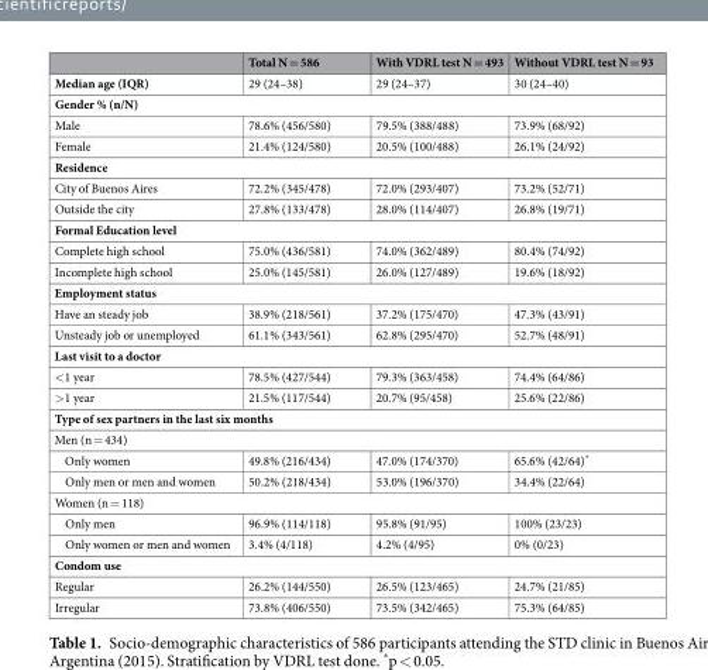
<table><thead><tr><td></td><td>Total N = 586</td><td>With VDRL test N = 493</td><td>Without VDRL test N = 93</td></tr></thead><tbody><tr><td>Median age (IQR)</td><td>29 (24–38)</td><td>29 (24–37)</td><td>30 (24–40)</td></tr><tr><td colspan="4">Gender % (n/N)</td></tr><tr><td>Male</td><td>78.6% (456/580)</td><td>79.5% (388/488)</td><td>73.9% (68/92)</td></tr><tr><td>Female</td><td>21.4% (124/580)</td><td>20.5% (100/488)</td><td>26.1% (24/92)</td></tr><tr><td colspan="4">Residence</td></tr><tr><td>City of Buenos Aires</td><td>72.2% (345/478)</td><td>72.0% (293/407)</td><td>73.2% (52/71)</td></tr><tr><td>Outside the city</td><td>27.8% (133/478)</td><td>28.0% (114/407)</td><td>26.8% (19/71)</td></tr><tr><td colspan="4">Formal Education level</td></tr><tr><td>Complete high school</td><td>75.0% (436/581)</td><td>74.0% (362/489)</td><td>80.4% (74/92)</td></tr><tr><td>Incomplete high school</td><td>25.0% (145/581)</td><td>26.0% (127/489)</td><td>19.6% (18/92)</td></tr><tr><td colspan="4">Employment status</td></tr><tr><td>Have an steady job</td><td>38.9% (218/561)</td><td>37.2% (175/470)</td><td>47.3% (43/91)</td></tr><tr><td>Unsteady job or unemployed</td><td>61.1% (343/561)</td><td>62.8% (295/470)</td><td>52.7% (48/91)</td></tr><tr><td colspan="4">Last visit to a doctor</td></tr><tr><td>&lt;1 year</td><td>78.5% (427/544)</td><td>79.3% (363/458)</td><td>74.4% (64/86)</td></tr><tr><td>&gt;1 year</td><td>21.5% (117/544)</td><td>20.7% (95/458)</td><td>25.6% (22/86)</td></tr><tr><td colspan="4">Type of sex partners in the last six months</td></tr><tr><td colspan="4">Men (n = 434)</td></tr><tr><td>Only women</td><td>49.8% (216/434)</td><td>47.0% (174/370)</td><td>65.6% (42/64)*</td></tr><tr><td>Only men or men and women</td><td>50.2% (218/434)</td><td>53.0% (196/370)</td><td>34.4% (22/64)</td></tr><tr><td colspan="4">Women (n = 118)</td></tr><tr><td>Only men</td><td>96.9% (114/118)</td><td>95.8% (91/95)</td><td>100% (23/23)</td></tr><tr><td>Only women or men and women</td><td>3.4% (4/118)</td><td>4.2% (4/95)</td><td>0% (0/23)</td></tr><tr><td colspan="4">Condom use</td></tr><tr><td>Regular</td><td>26.2% (144/550)</td><td>26.5% (123/465)</td><td>24.7% (21/85)</td></tr><tr><td>Irregular</td><td>73.8% (406/550)</td><td>73.5% (342/465)</td><td>75.3% (64/85)</td></tr></tbody></table>